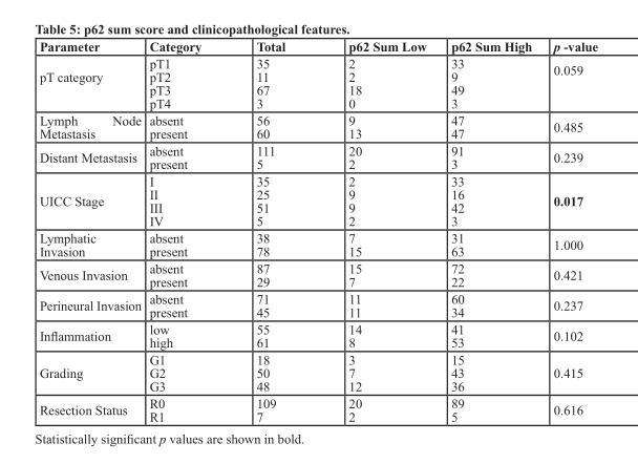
<table><thead><tr><td>Parameter</td><td>category</td><td>total</td><td>p62 sum low</td><td>p62 sum High</td><td>p -value</td></tr></thead><tbody><tr><td>pT category</td><td>pT1 pT2 pT3 pT4</td><td>35 11 67 3</td><td>2 2 18 0</td><td>33 9 49 3</td><td>0.059</td></tr><tr><td>Lymph Node Metastasis</td><td>absent present</td><td>56 60</td><td>9 13</td><td>47 47</td><td>0.485</td></tr><tr><td>Distant Metastasis</td><td>absent present</td><td>111 5</td><td>20 2</td><td>91 3</td><td>0.239</td></tr><tr><td>UICC Stage</td><td>I II III IV</td><td>35 25 51 5</td><td>2 9 9 2</td><td>33 16 42 3</td><td>0.017</td></tr><tr><td>Lymphatic Invasion</td><td>absent present</td><td>38 78</td><td>7 15</td><td>31 63</td><td>1.000</td></tr><tr><td>Venous Invasion</td><td>absent present</td><td>87 29</td><td>15 7</td><td>72 22</td><td>0.421</td></tr><tr><td>Perineural Invasion</td><td>absent present</td><td>71 45</td><td>11 11</td><td>60 34</td><td>0.237</td></tr><tr><td>Inflammation</td><td>low high</td><td>55 61</td><td>14 8</td><td>41 53</td><td>0.102</td></tr><tr><td>Grading</td><td>G1 G2 G3</td><td>18 50 48</td><td>3 7 12</td><td>15 43 36</td><td>0.415</td></tr><tr><td>Resection Status</td><td>R0 R1</td><td>109 7</td><td>20 2</td><td>89 5</td><td>0.616</td></tr></tbody></table>